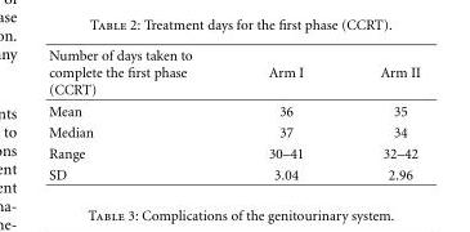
<table><thead><tr><td>Number of days taken to complete the first phase (CCRT)</td><td>Arm I</td><td>Arm II</td></tr></thead><tbody><tr><td>Mean</td><td>36</td><td>35</td></tr><tr><td>Median</td><td>37</td><td>34</td></tr><tr><td>Range</td><td>30–41</td><td>32–42</td></tr><tr><td>SD</td><td>3.04</td><td>2.96</td></tr></tbody></table>